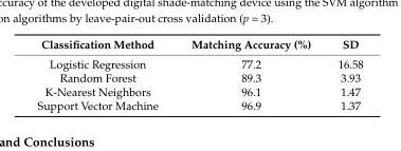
<table><thead><tr><td>Classification Method</td><td>Matching Accuracy (%)</td><td>SD</td></tr></thead><tbody><tr><td>Logistic Regression</td><td>77.2</td><td>16.58</td></tr><tr><td>Random Forest</td><td>89.3</td><td>3.93</td></tr><tr><td>K-Nearest Neighbors</td><td>96.1</td><td>1.47</td></tr><tr><td>Support Vector Machine</td><td>96.9</td><td>1.37</td></tr></tbody></table>